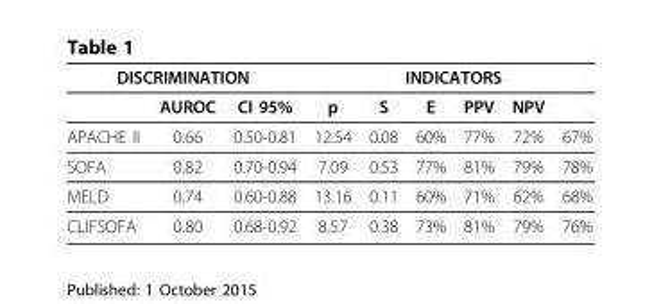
<table><thead><tr><td colspan="3">DISCRIMINATION</td><td colspan="6">INDICATORS</td></tr><tr><td></td><td>AUROC</td><td>CI 95%</td><td>p</td><td>S</td><td>E</td><td>PPV</td><td>NPV</td><td></td></tr></thead><tbody><tr><td>APACHE II</td><td>0.66</td><td>0.50-0.81</td><td>12.54</td><td>0.08</td><td>60%</td><td>77%</td><td>72%</td><td>67%</td></tr><tr><td>SOFA</td><td>0.82</td><td>0.70-0.94</td><td>7.09</td><td>0.53</td><td>77%</td><td>81%</td><td>79%</td><td>78%</td></tr><tr><td>MELD</td><td>0.74</td><td>0.60-0.88</td><td>13.16</td><td>0.11</td><td>60%</td><td>71%</td><td>62%</td><td>68%</td></tr><tr><td>CLIFSOFA</td><td>0.80</td><td>0.68-0.92</td><td>8.57</td><td>0.38</td><td>73%</td><td>81%</td><td>79%</td><td>76%</td></tr></tbody></table>